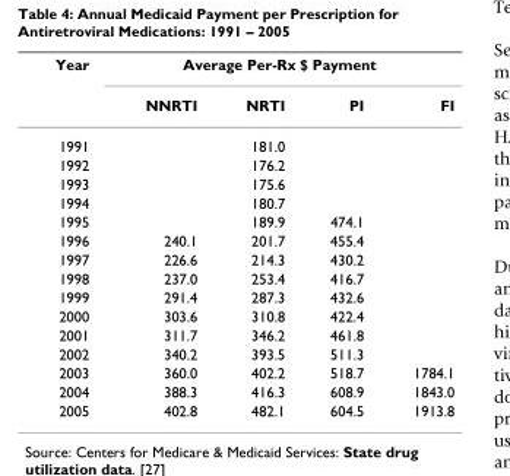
<table><thead><tr><td rowspan="2">Year</td><td colspan="4">Average Per-Rx $ Payment</td></tr><tr><td>NNRTI</td><td>NRTI</td><td>PI</td><td>FI</td></tr></thead><tbody><tr><td>1991</td><td></td><td>181.0</td><td></td><td></td></tr><tr><td>1992</td><td></td><td>176.2</td><td></td><td></td></tr><tr><td>1993</td><td></td><td>175.6</td><td></td><td></td></tr><tr><td>1994</td><td></td><td>180.7</td><td></td><td></td></tr><tr><td>1995</td><td></td><td>189.9</td><td>474.1</td><td></td></tr><tr><td>1996</td><td>240.1</td><td>201.7</td><td>455.4</td><td></td></tr><tr><td>1997</td><td>226.6</td><td>214.3</td><td>430.2</td><td></td></tr><tr><td>1998</td><td>237.0</td><td>253.4</td><td>416.7</td><td></td></tr><tr><td>1999</td><td>291.4</td><td>287.3</td><td>432.6</td><td></td></tr><tr><td>2000</td><td>303.6</td><td>310.8</td><td>422.4</td><td></td></tr><tr><td>2001</td><td>311.7</td><td>346.2</td><td>461.8</td><td></td></tr><tr><td>2002</td><td>340.2</td><td>393.5</td><td>511.3</td><td></td></tr><tr><td>2003</td><td>360.0</td><td>402.2</td><td>518.7</td><td>1784.1</td></tr><tr><td>2004</td><td>388.3</td><td>416.3</td><td>608.9</td><td>1843.0</td></tr><tr><td>2005</td><td>402.8</td><td>482.1</td><td>604.5</td><td>1913.8</td></tr></tbody></table>